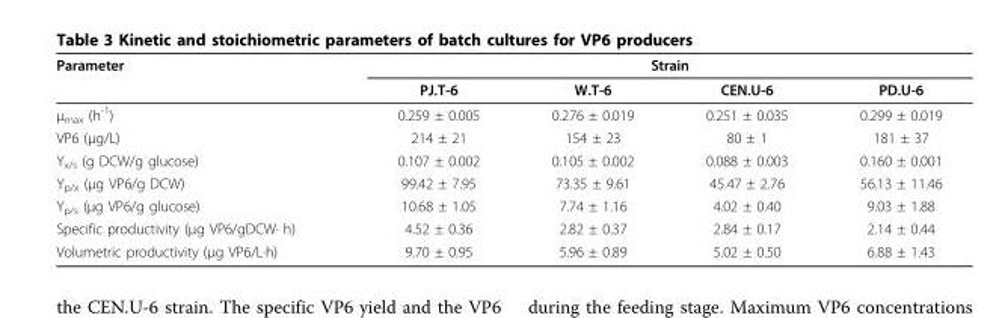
<table><thead><tr><td rowspan="2">Parameter</td><td colspan="4">Strain</td></tr><tr><td>PJ.T-6</td><td>W.T-6</td><td>CEN.U-6</td><td>PD.U-6</td></tr></thead><tbody><tr><td>μ<sub>max</sub> (h<sup>-1</sup>)</td><td>0.259 ± 0.005</td><td>0.276 ± 0.019</td><td>0.251 ± 0.035</td><td>0.299 ± 0.019</td></tr><tr><td>VP6 (μg/L)</td><td>214 ± 21</td><td>154 ± 23</td><td>80 ± 1</td><td>181 ± 37</td></tr><tr><td>Y<sub>x/s</sub> (g DCW/g glucose)</td><td>0.107 ± 0.002</td><td>0.105 ± 0.002</td><td>0.088 ± 0.003</td><td>0.160 ± 0.001</td></tr><tr><td>Y<sub>p/x</sub> (μg VP6/g DCW)</td><td>99.42 ± 7.95</td><td>73.35 ± 9.61</td><td>45.47 ± 2.76</td><td>56.13 ± 11.46</td></tr><tr><td>Y<sub>p/s</sub> (μg VP6/g glucose)</td><td>10.68 ± 1.05</td><td>7.74 ± 1.16</td><td>4.02 ± 0.40</td><td>9.03 ± 1.88</td></tr><tr><td>Specific productivity (μg VP6/gDCW· h)</td><td>4.52 ± 0.36</td><td>2.82 ± 0.37</td><td>2.84 ± 0.17</td><td>2.14 ± 0.44</td></tr><tr><td>Volumetric productivity (μg VP6/L·h)</td><td>9.70 ± 0.95</td><td>5.96 ± 0.89</td><td>5.02 ± 0.50</td><td>6.88 ± 1.43</td></tr></tbody></table>